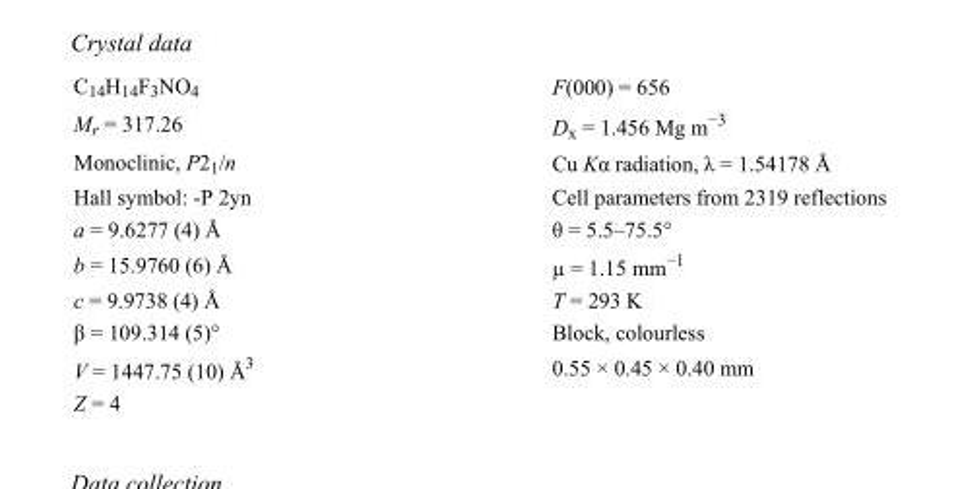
<table><tbody><tr><td>C<sub>14</sub>H<sub>14</sub>F<sub>3</sub>NO<sub>4</sub></td><td>F(000) = 656</td></tr><tr><td>M<sub>r</sub> = 317.26</td><td>D<sub>x</sub> = 1.456 Mg m<sup>−3</sup></td></tr><tr><td>Monoclinic, P2<sub>1</sub>/n</td><td>Cu Kα radiation, λ = 1.54178 Å</td></tr><tr><td>Hall symbol: -P 2yn</td><td>Cell parameters from 2319 reflections</td></tr><tr><td>a = 9.6277 (4) Å</td><td>θ = 5.5–75.5°</td></tr><tr><td>b = 15.9760 (6) Å</td><td>µ = 1.15 mm<sup>−1</sup></td></tr><tr><td>c = 9.9738 (4) Å</td><td>T = 293 K</td></tr><tr><td>β = 109.314 (5)°</td><td>Block, colourless</td></tr><tr><td>V = 1447.75 (10) Å<sup>3</sup></td><td>0.55 × 0.45 × 0.40 mm</td></tr><tr><td>Z = 4</td><td></td></tr></tbody></table>